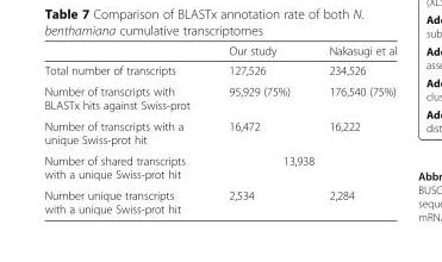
<table><thead><tr><td></td><td>Our study</td><td>Nakasugi et al</td></tr></thead><tbody><tr><td>Total number of transcripts</td><td>127,526</td><td>234,526</td></tr><tr><td>Number of transcripts with BLASTx hits against Swiss-prot</td><td>95,929 (75%)</td><td>176,540 (75%)</td></tr><tr><td>Number of transcripts with a unique Swiss-prot hit</td><td>16,472</td><td>16,222</td></tr><tr><td>Number of shared transcripts with a unique Swiss-prot hit</td><td colspan="2">13,938</td></tr><tr><td>Number unique transcripts with a unique Swiss-prot hit</td><td>2,534</td><td>2,284</td></tr></tbody></table>